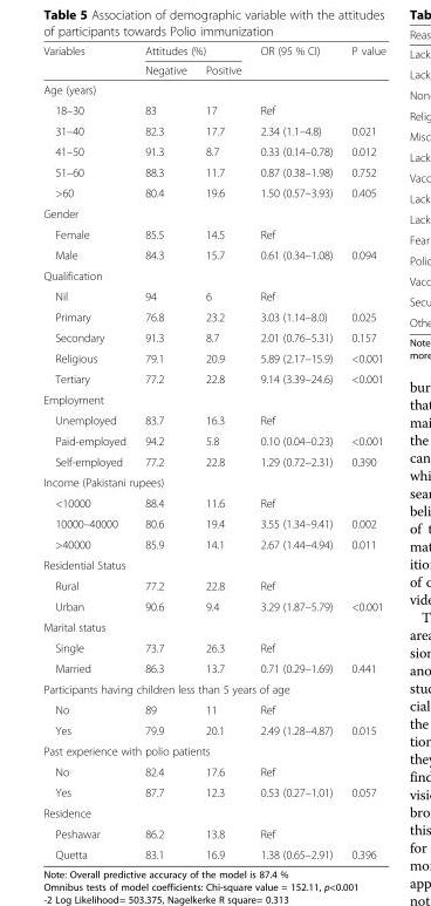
<table><thead><tr><td rowspan="2">Variables</td><td colspan="2">Attitudes (%)</td><td rowspan="2">OR (95 % CI)</td><td rowspan="2">P value</td></tr><tr><td>Negative</td><td>Positive</td></tr></thead><tbody><tr><td colspan="5">Age (years)</td></tr><tr><td>18–30</td><td>83</td><td>17</td><td>Ref</td><td></td></tr><tr><td>31–40</td><td>82.3</td><td>17.7</td><td>2.34 (1.1–4.8)</td><td>0.021</td></tr><tr><td>41–50</td><td>91.3</td><td>8.7</td><td>0.33 (0.14–0.78)</td><td>0.012</td></tr><tr><td>51–60</td><td>88.3</td><td>11.7</td><td>0.87 (0.38–1.98)</td><td>0.752</td></tr><tr><td>&gt;60</td><td>80.4</td><td>19.6</td><td>1.50 (0.57–3.93)</td><td>0.405</td></tr><tr><td colspan="5">Gender</td></tr><tr><td>Female</td><td>85.5</td><td>14.5</td><td>Ref</td><td></td></tr><tr><td>Male</td><td>84.3</td><td>15.7</td><td>0.61 (0.34–1.08)</td><td>0.094</td></tr><tr><td colspan="5">Qualification</td></tr><tr><td>Nil</td><td>94</td><td>6</td><td>Ref</td><td></td></tr><tr><td>Primary</td><td>76.8</td><td>23.2</td><td>3.03 (1.14–8.0)</td><td>0.025</td></tr><tr><td>Secondary</td><td>91.3</td><td>8.7</td><td>2.01 (0.76–5.31)</td><td>0.157</td></tr><tr><td>Religious</td><td>79.1</td><td>20.9</td><td>5.89 (2.17–15.9)</td><td>&lt;0.001</td></tr><tr><td>Tertiary</td><td>77.2</td><td>22.8</td><td>9.14 (3.39–24.6)</td><td>&lt;0.001</td></tr><tr><td colspan="5">Employment</td></tr><tr><td>Unemployed</td><td>83.7</td><td>16.3</td><td>Ref</td><td></td></tr><tr><td>Paid-employed</td><td>94.2</td><td>5.8</td><td>0.10 (0.04–0.23)</td><td>&lt;0.001</td></tr><tr><td>Self-employed</td><td>77.2</td><td>22.8</td><td>1.29 (0.72–2.31)</td><td>0.390</td></tr><tr><td colspan="5">Income (Pakistani rupees)</td></tr><tr><td>&lt;10000</td><td>88.4</td><td>11.6</td><td>Ref</td><td></td></tr><tr><td>10000–40000</td><td>80.6</td><td>19.4</td><td>3.55 (1.34–9.41)</td><td>0.002</td></tr><tr><td>&gt;40000</td><td>85.9</td><td>14.1</td><td>2.67 (1.44–4.94)</td><td>0.011</td></tr><tr><td colspan="5">Residential Status</td></tr><tr><td>Rural</td><td>77.2</td><td>22.8</td><td>Ref</td><td></td></tr><tr><td>Urban</td><td>90.6</td><td>9.4</td><td>3.29 (1.87–5.79)</td><td>&lt;0.001</td></tr><tr><td colspan="5">Marital status</td></tr><tr><td>Single</td><td>73.7</td><td>26.3</td><td>Ref</td><td></td></tr><tr><td>Married</td><td>86.3</td><td>13.7</td><td>0.71 (0.29–1.69)</td><td>0.441</td></tr><tr><td colspan="5">Participants having children less than 5 years of age</td></tr><tr><td>No</td><td>89</td><td>11</td><td>Ref</td><td></td></tr><tr><td>Yes</td><td>79.9</td><td>20.1</td><td>2.49 (1.28–4.87)</td><td>0.015</td></tr><tr><td colspan="5">Past experience with polio patients</td></tr><tr><td>No</td><td>82.4</td><td>17.6</td><td>Ref</td><td></td></tr><tr><td>Yes</td><td>87.7</td><td>12.3</td><td>0.53 (0.27–1.01)</td><td>0.057</td></tr><tr><td colspan="5">Residence</td></tr><tr><td>Peshawar</td><td>86.2</td><td>13.8</td><td>Ref</td><td></td></tr><tr><td>Quetta</td><td>83.1</td><td>16.9</td><td>1.38 (0.65–2.91)</td><td>0.396</td></tr></tbody></table>